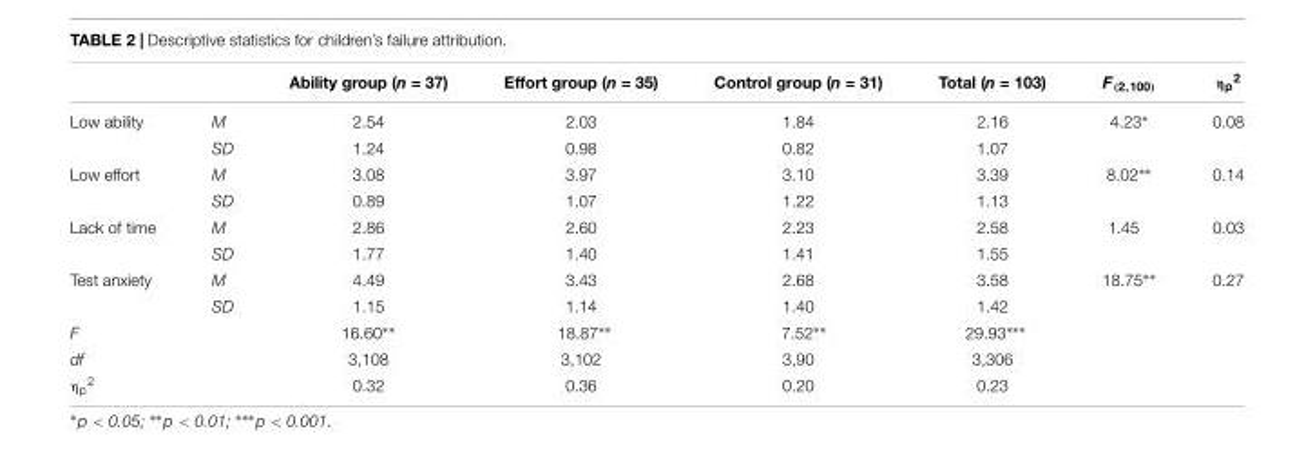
<table><thead><tr><td></td><td></td><td>Ability group (n = 37)</td><td>Effort group (n = 35)</td><td>Control group (n = 31)</td><td>Total (n = 103)</td><td>F<sub>(2,100)</sub></td><td>η<sub>p</sub><sup>2</sup></td></tr></thead><tbody><tr><td rowspan="2">Low ability</td><td>M</td><td>2.54</td><td>2.03</td><td>1.84</td><td>2.16</td><td>4.23∗</td><td>0.08</td></tr><tr><td>SD</td><td>1.24</td><td>0.98</td><td>0.82</td><td>1.07</td><td></td><td></td></tr><tr><td rowspan="2">Low effort</td><td>M</td><td>3.08</td><td>3.97</td><td>3.10</td><td>3.39</td><td>8.02∗∗</td><td>0.14</td></tr><tr><td>SD</td><td>0.89</td><td>1.07</td><td>1.22</td><td>1.13</td><td></td><td></td></tr><tr><td rowspan="2">Lack of time</td><td>M</td><td>2.86</td><td>2.60</td><td>2.23</td><td>2.58</td><td>1.45</td><td>0.03</td></tr><tr><td>SD</td><td>1.77</td><td>1.40</td><td>1.41</td><td>1.55</td><td></td><td></td></tr><tr><td rowspan="2">Test anxiety</td><td>M</td><td>4.49</td><td>3.43</td><td>2.68</td><td>3.58</td><td>18.75∗∗</td><td>0.27</td></tr><tr><td>SD</td><td>1.15</td><td>1.14</td><td>1.40</td><td>1.42</td><td></td><td></td></tr><tr><td>F</td><td></td><td>16.60∗∗</td><td>18.87∗∗</td><td>7.52∗∗</td><td>29.93∗∗∗</td><td></td><td></td></tr><tr><td>df</td><td></td><td>3,108</td><td>3,102</td><td>3,90</td><td>3,306</td><td></td><td></td></tr><tr><td>η<sub>p</sub><sup>2</sup></td><td></td><td>0.32</td><td>0.36</td><td>0.20</td><td>0.23</td><td></td><td></td></tr></tbody></table>